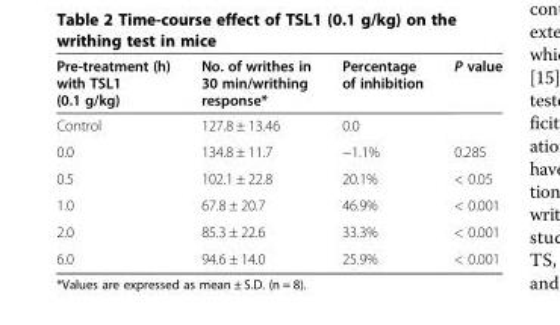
<table><thead><tr><td>Pre-treatment (h) with TSL1 (0.1 g/kg)</td><td>No. of writhes in 30 min/writhing response*</td><td>Percentage of inhibition</td><td>P value</td></tr></thead><tbody><tr><td>Control</td><td>127.8 ± 13.46</td><td>0.0</td><td></td></tr><tr><td>0.0</td><td>134.8 ± 11.7</td><td>−1.1%</td><td>0.285</td></tr><tr><td>0.5</td><td>102.1 ± 22.8</td><td>20.1%</td><td>&lt; 0.05</td></tr><tr><td>1.0</td><td>67.8 ± 20.7</td><td>46.9%</td><td>&lt; 0.001</td></tr><tr><td>2.0</td><td>85.3 ± 22.6</td><td>33.3%</td><td>&lt; 0.001</td></tr><tr><td>6.0</td><td>94.6 ± 14.0</td><td>25.9%</td><td>&lt; 0.001</td></tr></tbody></table>